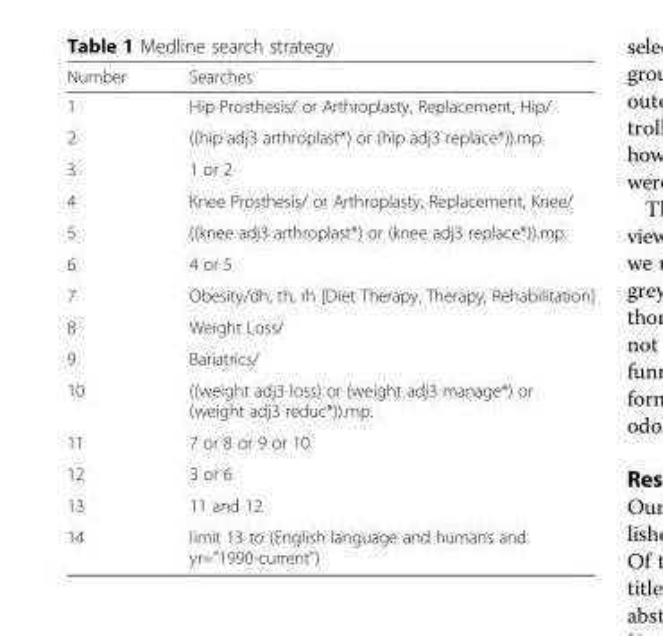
<table><thead><tr><td>Number</td><td>Searches</td></tr></thead><tbody><tr><td>1</td><td>Hip Prosthesis/ or Arthroplasty, Replacement, Hip/</td></tr><tr><td>2</td><td>((hip adj3 arthroplast*) or (hip adj3 replace*)).mp.</td></tr><tr><td>3</td><td>1 or 2</td></tr><tr><td>4</td><td>Knee Prosthesis/ or Arthroplasty, Replacement, Knee/</td></tr><tr><td>5</td><td>((knee adj3 arthroplast*) or (knee adj3 replace*)).mp.</td></tr><tr><td>6</td><td>4 or 5</td></tr><tr><td>7</td><td>Obesity/dh, th, rh [Diet Therapy, Therapy, Rehabilitation]</td></tr><tr><td>8</td><td>Weight Loss/</td></tr><tr><td>9</td><td>Bariatrics/</td></tr><tr><td>10</td><td>((weight adj3 loss) or (weight adj3 manage*) or (weight adj3 reduc*)).mp.</td></tr><tr><td>11</td><td>7 or 8 or 9 or 10</td></tr><tr><td>12</td><td>3 or 6</td></tr><tr><td>13</td><td>11 and 12</td></tr><tr><td>14</td><td>limit 13 to (English language and humans and yr=”1990-current”)</td></tr></tbody></table>